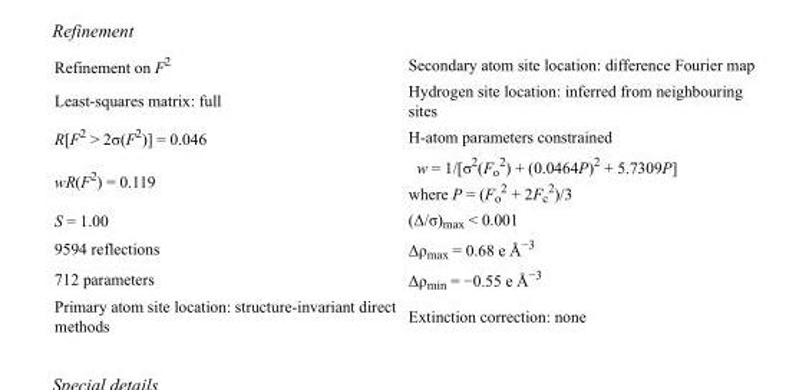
<table><tbody><tr><td>Refinement on F<sup>2</sup></td><td>Secondary atom site location: difference Fourier map</td></tr><tr><td>Least-squares matrix: full</td><td>Hydrogen site location: inferred from neighbouring sites</td></tr><tr><td>R[F<sup>2</sup> &gt; 2σ(F<sup>2</sup>)] = 0.046</td><td>H-atom parameters constrained</td></tr><tr><td>wR(F<sup>2</sup>) = 0.119</td><td>w = 1/[σ<sup>2</sup>(F<sub>o</sub> <sup>2</sup>) + (0.0464P)<sup>2</sup> + 5.7309P] where P = (F<sub>o</sub> <sup>2</sup> + 2F<sub>c</sub> <sup>2</sup>)/3</td></tr><tr><td>S = 1.00</td><td>(Δ/σ)<sub>max</sub> &lt; 0.001</td></tr><tr><td>9594 reflections</td><td>Δρ<sub>max</sub> = 0.68 e Å<sup>−3</sup></td></tr><tr><td>712 parameters</td><td>Δρ<sub>min</sub> = −0.55 e Å<sup>−3</sup></td></tr><tr><td>Primary atom site location: structure-invariant direct methods</td><td>Extinction correction: none</td></tr></tbody></table>